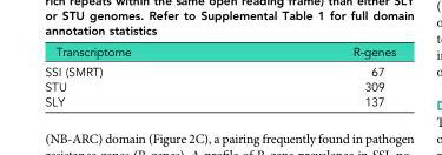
<table><thead><tr><td>Transcriptome</td><td>R-genes</td></tr></thead><tbody><tr><td>SSI (SMRT)</td><td>67</td></tr><tr><td>STU</td><td>309</td></tr><tr><td>SLY</td><td>137</td></tr></tbody></table>